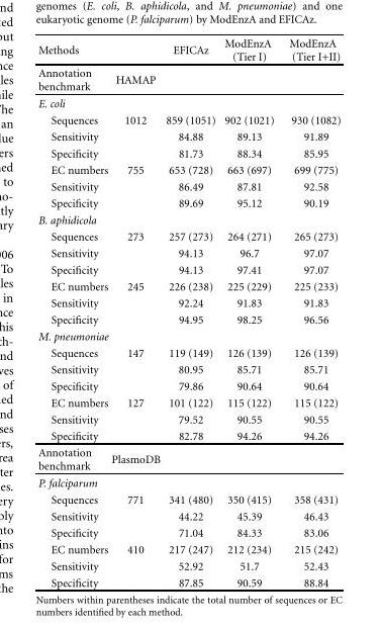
<table><thead><tr><td>Methods</td><td></td><td>EFICAz</td><td>ModEnzA (Tier I)</td><td>ModEnzA (Tier I+II)</td></tr></thead><tbody><tr><td>Annotation benchmark</td><td>HAMAP</td><td></td><td></td><td></td></tr><tr><td colspan="5">E. coli</td></tr><tr><td>Sequences</td><td>1012</td><td>859 (1051)</td><td>902 (1021)</td><td>930 (1082)</td></tr><tr><td>Sensitivity</td><td></td><td>84.88</td><td>89.13</td><td>91.89</td></tr><tr><td>Specificity</td><td></td><td>81.73</td><td>88.34</td><td>85.95</td></tr><tr><td>EC numbers</td><td>755</td><td>653 (728)</td><td>663 (697)</td><td>699 (775)</td></tr><tr><td>Sensitivity</td><td></td><td>86.49</td><td>87.81</td><td>92.58</td></tr><tr><td>Specificity</td><td></td><td>89.69</td><td>95.12</td><td>90.19</td></tr><tr><td colspan="5">B. aphidicola</td></tr><tr><td>Sequences</td><td>273</td><td>257 (273)</td><td>264 (271)</td><td>265 (273)</td></tr><tr><td>Sensitivity</td><td></td><td>94.13</td><td>96.7</td><td>97.07</td></tr><tr><td>Specificity</td><td></td><td>94.13</td><td>97.41</td><td>97.07</td></tr><tr><td>EC numbers</td><td>245</td><td>226 (238)</td><td>225 (229)</td><td>225 (233)</td></tr><tr><td>Sensitivity</td><td></td><td>92.24</td><td>91.83</td><td>91.83</td></tr><tr><td>Specificity</td><td></td><td>94.95</td><td>98.25</td><td>96.56</td></tr><tr><td colspan="5">M. pneumoniae</td></tr><tr><td>Sequences</td><td>147</td><td>119 (149)</td><td>126 (139)</td><td>126 (139)</td></tr><tr><td>Sensitivity</td><td></td><td>80.95</td><td>85.71</td><td>85.71</td></tr><tr><td>Specificity</td><td></td><td>79.86</td><td>90.64</td><td>90.64</td></tr><tr><td>EC numbers</td><td>127</td><td>101 (122)</td><td>115 (122)</td><td>115 (122)</td></tr><tr><td>Sensitivity</td><td></td><td>79.52</td><td>90.55</td><td>90.55</td></tr><tr><td>Specificity</td><td></td><td>82.78</td><td>94.26</td><td>94.26</td></tr><tr><td>Annotation benchmark</td><td>PlasmoDB</td><td></td><td></td><td></td></tr><tr><td colspan="5">P. falciparum</td></tr><tr><td>Sequences</td><td>771</td><td>341 (480)</td><td>350 (415)</td><td>358 (431)</td></tr><tr><td>Sensitivity</td><td></td><td>44.22</td><td>45.39</td><td>46.43</td></tr><tr><td>Specificity</td><td></td><td>71.04</td><td>84.33</td><td>83.06</td></tr><tr><td>EC numbers</td><td>410</td><td>217 (247)</td><td>212 (234)</td><td>215 (242)</td></tr><tr><td>Sensitivity</td><td></td><td>52.92</td><td>51.7</td><td>52.43</td></tr><tr><td>Specificity</td><td></td><td>87.85</td><td>90.59</td><td>88.84</td></tr></tbody></table>